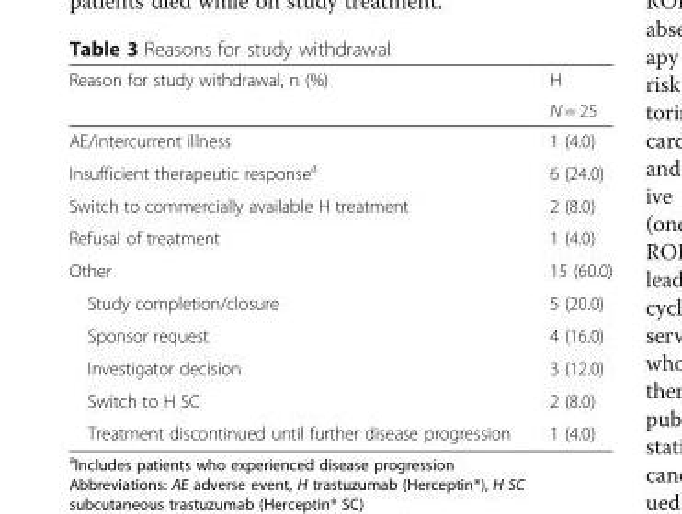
<table><thead><tr><td rowspan="2">Reason for study withdrawal, n (%)</td><td rowspan="2">H N = 25</td></tr><tr></tr></thead><tbody><tr><td>AE/intercurrent illness</td><td>1 (4.0)</td></tr><tr><td>Insufficient therapeutic response<sup>a</sup></td><td>6 (24.0)</td></tr><tr><td>Switch to commercially available H treatment</td><td>2 (8.0)</td></tr><tr><td>Refusal of treatment</td><td>1 (4.0)</td></tr><tr><td>Other</td><td>15 (60.0)</td></tr><tr><td>Study completion/closure</td><td>5 (20.0)</td></tr><tr><td>Sponsor request</td><td>4 (16.0)</td></tr><tr><td>Investigator decision</td><td>3 (12.0)</td></tr><tr><td>Switch to H SC</td><td>2 (8.0)</td></tr><tr><td>Treatment discontinued until further disease progression</td><td>1 (4.0)</td></tr></tbody></table>